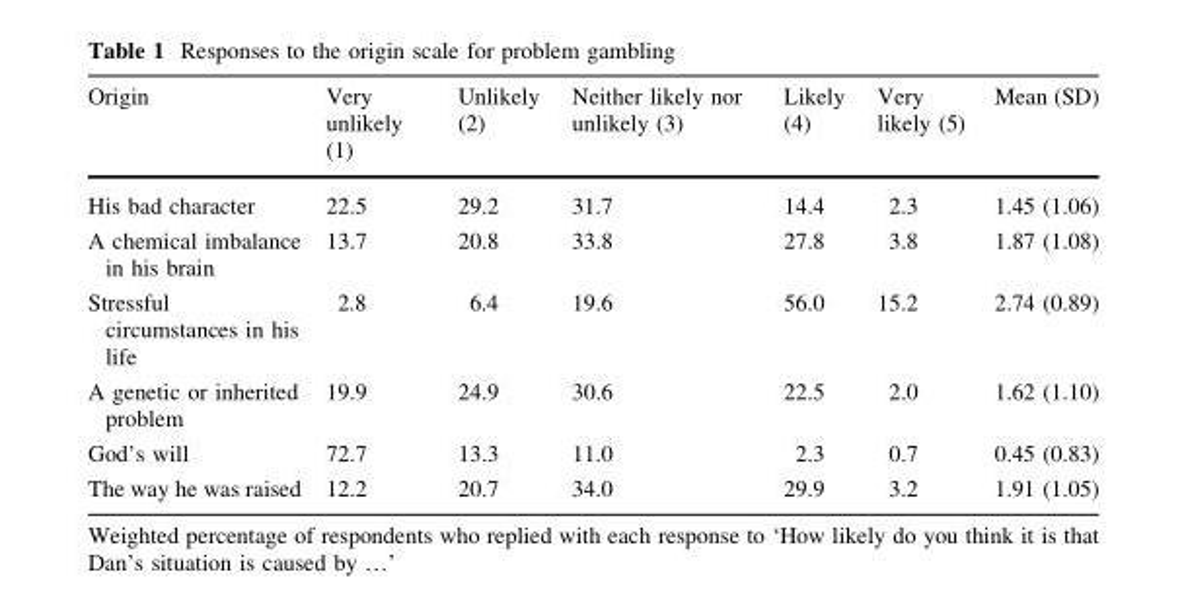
<table><thead><tr><td>Origin</td><td>Very unlikely (1)</td><td>Unlikely (2)</td><td>Neither likely nor unlikely (3)</td><td>Likely (4)</td><td>Very likely (5)</td><td>Mean (SD)</td></tr></thead><tbody><tr><td>His bad character</td><td>22.5</td><td>29.2</td><td>31.7</td><td>14.4</td><td>2.3</td><td>1.45 (1.06)</td></tr><tr><td>A chemical imbalance in his brain</td><td>13.7</td><td>20.8</td><td>33.8</td><td>27.8</td><td>3.8</td><td>1.87 (1.08)</td></tr><tr><td>Stressful circumstances in his life</td><td>2.8</td><td>6.4</td><td>19.6</td><td>56.0</td><td>15.2</td><td>2.74 (0.89)</td></tr><tr><td>A genetic or inherited problem</td><td>19.9</td><td>24.9</td><td>30.6</td><td>22.5</td><td>2.0</td><td>1.62 (1.10)</td></tr><tr><td>God’s will</td><td>72.7</td><td>13.3</td><td>11.0</td><td>2.3</td><td>0.7</td><td>0.45 (0.83)</td></tr><tr><td>The way he was raised</td><td>12.2</td><td>20.7</td><td>34.0</td><td>29.9</td><td>3.2</td><td>1.91 (1.05)</td></tr></tbody></table>